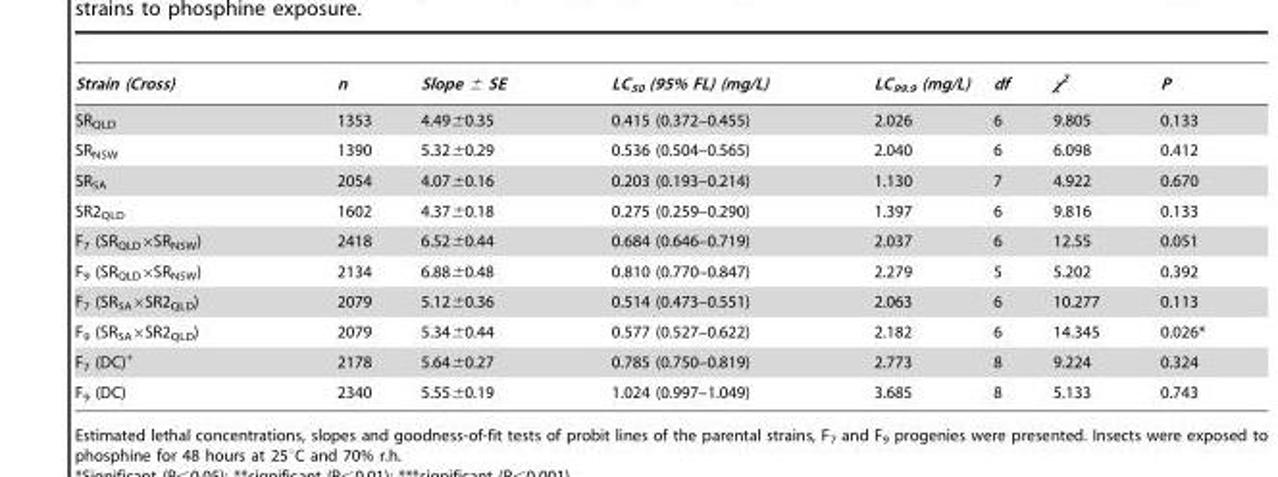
<table><thead><tr><td>Strain (Cross)</td><td>n</td><td>Slope ± SE</td><td>LC<sub>50</sub> (95% FL) (mg/L)</td><td>LC<sub>99.9</sub> (mg/L)</td><td>df</td><td>χ<sup>2</sup></td><td>P</td></tr></thead><tbody><tr><td>SR<sub>QLD</sub></td><td>1353</td><td>4.49±0.35</td><td>0.415 (0.372–0.455)</td><td>2.026</td><td>6</td><td>9.805</td><td>0.133</td></tr><tr><td>SR<sub>NSW</sub></td><td>1390</td><td>5.32±0.29</td><td>0.536 (0.504–0.565)</td><td>2.040</td><td>6</td><td>6.098</td><td>0.412</td></tr><tr><td>SR<sub>SA</sub></td><td>2054</td><td>4.07±0.16</td><td>0.203 (0.193–0.214)</td><td>1.130</td><td>7</td><td>4.922</td><td>0.670</td></tr><tr><td>SR2<sub>QLD</sub></td><td>1602</td><td>4.37±0.18</td><td>0.275 (0.259–0.290)</td><td>1.397</td><td>6</td><td>9.816</td><td>0.133</td></tr><tr><td>F<sub>7</sub> (SR<sub>QLD</sub>×SR<sub>NSW</sub>)</td><td>2418</td><td>6.52±0.44</td><td>0.684 (0.646–0.719)</td><td>2.037</td><td>6</td><td>12.55</td><td>0.051</td></tr><tr><td>F<sub>9</sub> (SR<sub>QLD</sub>×SR<sub>NSW</sub>)</td><td>2134</td><td>6.88±0.48</td><td>0.810 (0.770–0.847)</td><td>2.279</td><td>5</td><td>5.202</td><td>0.392</td></tr><tr><td>F<sub>7</sub> (SR<sub>SA</sub>×SR2<sub>QLD</sub>)</td><td>2079</td><td>5.12±0.36</td><td>0.514 (0.473–0.551)</td><td>2.063</td><td>6</td><td>10.277</td><td>0.113</td></tr><tr><td>F<sub>9</sub> (SR<sub>SA</sub>×SR2<sub>QLD</sub>)</td><td>2079</td><td>5.34±0.44</td><td>0.577 (0.527–0.622)</td><td>2.182</td><td>6</td><td>14.345</td><td>0.026*</td></tr><tr><td>F<sub>7</sub> (DC)+</td><td>2178</td><td>5.64±0.27</td><td>0.785 (0.750–0.819)</td><td>2.773</td><td>8</td><td>9.224</td><td>0.324</td></tr><tr><td>F<sub>9</sub> (DC)</td><td>2340</td><td>5.55±0.19</td><td>1.024 (0.997–1.049)</td><td>3.685</td><td>8</td><td>5.133</td><td>0.743</td></tr></tbody></table>